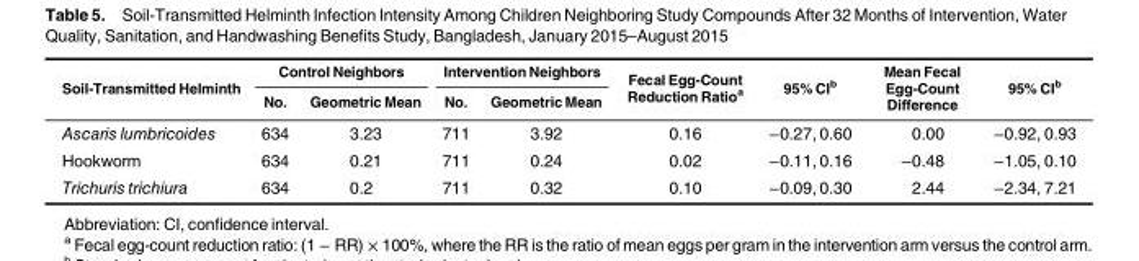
<table><thead><tr><td rowspan="2">Soil-Transmitted Helminth</td><td colspan="2">Control Neighbors</td><td colspan="2">Intervention Neighbors</td><td rowspan="2">Fecal Egg-Count Reduction Ratio<sup>a</sup></td><td rowspan="2">95% CI<sup>b</sup></td><td rowspan="2">Mean Fecal Egg-Count Difference</td><td rowspan="2">95% CI<sup>b</sup></td></tr><tr><td>No.</td><td>Geometric Mean</td><td>No.</td><td>Geometric Mean</td></tr></thead><tbody><tr><td>Ascaris lumbricoides</td><td>634</td><td>3.23</td><td>711</td><td>3.92</td><td>0.16</td><td>−0.27, 0.60</td><td>0.00</td><td>−0.92, 0.93</td></tr><tr><td>Hookworm</td><td>634</td><td>0.21</td><td>711</td><td>0.24</td><td>0.02</td><td>−0.11, 0.16</td><td>−0.48</td><td>−1.05, 0.10</td></tr><tr><td>Trichuris trichiura</td><td>634</td><td>0.2</td><td>711</td><td>0.32</td><td>0.10</td><td>−0.09, 0.30</td><td>2.44</td><td>−2.34, 7.21</td></tr></tbody></table>